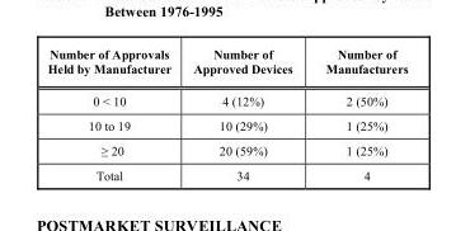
<table><thead><tr><td>Number of Approvals Held by Manufacturer</td><td>Number of Approved Devices</td><td>Number of Manufacturers</td></tr></thead><tbody><tr><td>0 &lt; 10</td><td>4 (12%)</td><td>2 (50%)</td></tr><tr><td>10 to 19</td><td>10 (29%)</td><td>1 (25%)</td></tr><tr><td>≥ 20</td><td>20 (59%)</td><td>1 (25%)</td></tr><tr><td>Total</td><td>34</td><td>4</td></tr></tbody></table>